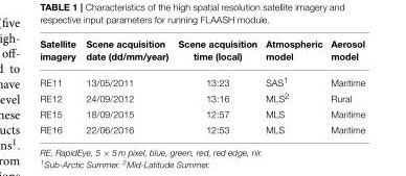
<table><thead><tr><td>Satellite imagery</td><td>Scene acquisition date (dd/mm/year)</td><td>Scene acquisition time (local)</td><td>Atmospheric model</td><td>Aerosol model</td></tr></thead><tbody><tr><td>RE11</td><td>13/05/2011</td><td>13:23</td><td>SAS<sup>1</sup></td><td>Maritime</td></tr><tr><td>RE12</td><td>24/09/2012</td><td>13:16</td><td>MLS<sup>2</sup></td><td>Rural</td></tr><tr><td>RE15</td><td>18/09/2015</td><td>12:57</td><td>MLS</td><td>Maritime</td></tr><tr><td>RE16</td><td>22/06/2016</td><td>12:53</td><td>MLS</td><td>Maritime</td></tr></tbody></table>